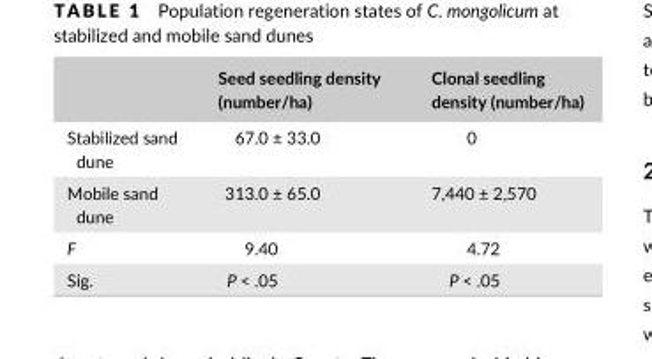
<table><thead><tr><td></td><td>Seed seedling density (number/ha)</td><td>Clonal seedling density (number/ha)</td></tr></thead><tbody><tr><td>Stabilized sand dune</td><td>67.0 ± 33.0</td><td>0</td></tr><tr><td>Mobile sand dune</td><td>313.0 ± 65.0</td><td>7,440 ± 2,570</td></tr><tr><td>F</td><td>9.40</td><td>4.72</td></tr><tr><td>Sig.</td><td>P &lt; .05</td><td>P &lt; .05</td></tr></tbody></table>